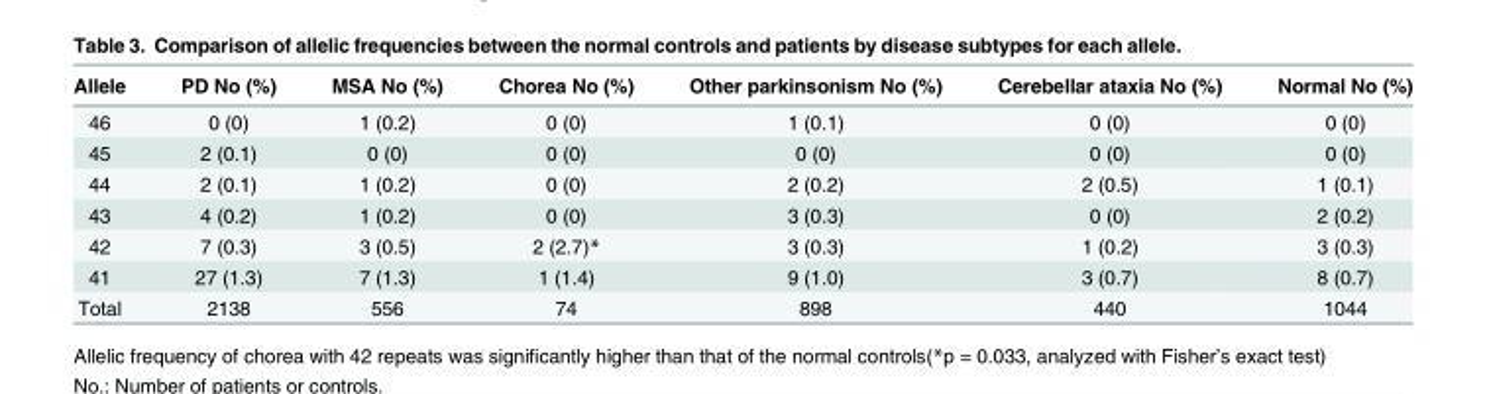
<table><thead><tr><td>Allele</td><td>PD No (%)</td><td>MSA No (%)</td><td>Chorea No (%)</td><td>Other parkinsonism No (%)</td><td>Cerebellar ataxia No (%)</td><td>Normal No (%)</td></tr></thead><tbody><tr><td>46</td><td>0 (0)</td><td>1 (0.2)</td><td>0 (0)</td><td>1 (0.1)</td><td>0 (0)</td><td>0 (0)</td></tr><tr><td>45</td><td>2 (0.1)</td><td>0 (0)</td><td>0 (0)</td><td>0 (0)</td><td>0 (0)</td><td>0 (0)</td></tr><tr><td>44</td><td>2 (0.1)</td><td>1 (0.2)</td><td>0 (0)</td><td>2 (0.2)</td><td>2 (0.5)</td><td>1 (0.1)</td></tr><tr><td>43</td><td>4 (0.2)</td><td>1 (0.2)</td><td>0 (0)</td><td>3 (0.3)</td><td>0 (0)</td><td>2 (0.2)</td></tr><tr><td>42</td><td>7 (0.3)</td><td>3 (0.5)</td><td>2 (2.7)*</td><td>3 (0.3)</td><td>1 (0.2)</td><td>3 (0.3)</td></tr><tr><td>41</td><td>27 (1.3)</td><td>7 (1.3)</td><td>1 (1.4)</td><td>9 (1.0)</td><td>3 (0.7)</td><td>8 (0.7)</td></tr><tr><td>Total</td><td>2138</td><td>556</td><td>74</td><td>898</td><td>440</td><td>1044</td></tr></tbody></table>